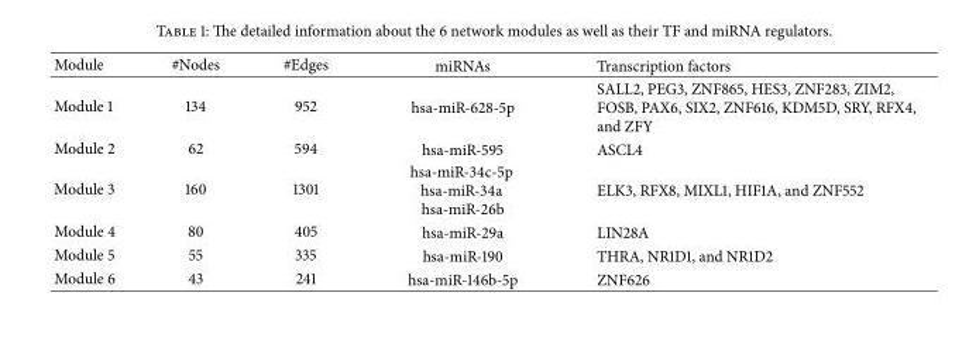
<table><tbody><tr><td>Module</td><td>#Nodes</td><td>#Edges</td><td>miRNAs</td><td>Transcription factors</td></tr><tr><td>Module 1</td><td>134</td><td>952</td><td>hsa-miR-628-5p</td><td>SALL2, PEG3, ZNF865, HES3, ZNF283, ZIM2, FOSB, PAX6, SIX2, ZNF616, KDM5D, SRY, RFX4, and ZFY</td></tr><tr><td>Module 2</td><td>62</td><td>594</td><td>hsa-miR-595</td><td>ASCL4</td></tr><tr><td>Module 3</td><td>160</td><td>1301</td><td>hsa-miR-34c-5p hsa-miR-34a hsa-miR-26b</td><td>ELK3, RFX8, MIXL1, HIF1A, and ZNF552</td></tr><tr><td>Module 4</td><td>80</td><td>405</td><td>hsa-miR-29a</td><td>LIN28A</td></tr><tr><td>Module 5</td><td>55</td><td>335</td><td>hsa-miR-190</td><td>THRA, NR1D1, and NR1D2</td></tr><tr><td>Module 6</td><td>43</td><td>241</td><td>hsa-miR-146b-5p</td><td>ZNF626</td></tr></tbody></table>